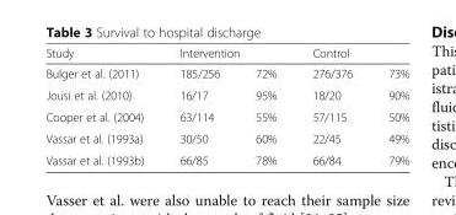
<table><thead><tr><td rowspan="2">Study Bulger et al. (2011)</td><td colspan="2">Intervention</td><td colspan="2">Control</td></tr><tr><td>185/256</td><td>72%</td><td>276/376</td><td>73%</td></tr></thead><tbody><tr><td>Jousi et al. (2010)</td><td>16/17</td><td>95%</td><td>18/20</td><td>90%</td></tr><tr><td>Cooper et al. (2004)</td><td>63/114</td><td>55%</td><td>57/115</td><td>50%</td></tr><tr><td>Vassar et al. (1993a)</td><td>30/50</td><td>60%</td><td>22/45</td><td>49%</td></tr><tr><td>Vassar et al. (1993b)</td><td>66/85</td><td>78%</td><td>66/84</td><td>79%</td></tr></tbody></table>